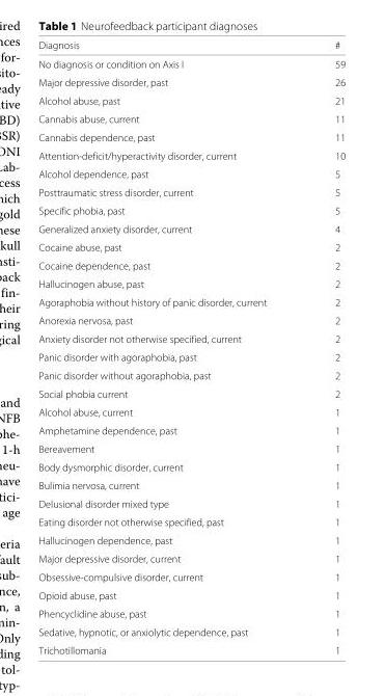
<table><thead><tr><td>Diagnosis</td><td>#</td></tr></thead><tbody><tr><td>No diagnosis or condition on Axis I</td><td>59</td></tr><tr><td>Major depressive disorder, past</td><td>26</td></tr><tr><td>Alcohol abuse, past</td><td>21</td></tr><tr><td>Cannabis abuse, current</td><td>11</td></tr><tr><td>Cannabis dependence, past</td><td>11</td></tr><tr><td>Attention-deficit/hyperactivity disorder, current</td><td>10</td></tr><tr><td>Alcohol dependence, past</td><td>5</td></tr><tr><td>Posttraumatic stress disorder, current</td><td>5</td></tr><tr><td>Specific phobia, past</td><td>5</td></tr><tr><td>Generalized anxiety disorder, current</td><td>4</td></tr><tr><td>Cocaine abuse, past</td><td>2</td></tr><tr><td>Cocaine dependence, past</td><td>2</td></tr><tr><td>Hallucinogen abuse, past</td><td>2</td></tr><tr><td>Agoraphobia without history of panic disorder, current</td><td>2</td></tr><tr><td>Anorexia nervosa, past</td><td>2</td></tr><tr><td>Anxiety disorder not otherwise specified, current</td><td>2</td></tr><tr><td>Panic disorder with agoraphobia, past</td><td>2</td></tr><tr><td>Panic disorder without agoraphobia, past</td><td>2</td></tr><tr><td>Social phobia current</td><td>2</td></tr><tr><td>Alcohol abuse, current</td><td>1</td></tr><tr><td>Amphetamine dependence, past</td><td>1</td></tr><tr><td>Bereavement</td><td>1</td></tr><tr><td>Body dysmorphic disorder, current</td><td>1</td></tr><tr><td>Bulimia nervosa, current</td><td>1</td></tr><tr><td>Delusional disorder mixed type</td><td>1</td></tr><tr><td>Eating disorder not otherwise specified, past</td><td>1</td></tr><tr><td>Hallucinogen dependence, past</td><td>1</td></tr><tr><td>Major depressive disorder, current</td><td>1</td></tr><tr><td>Obsessive-compulsive disorder, current</td><td>1</td></tr><tr><td>Opioid abuse, past</td><td>1</td></tr><tr><td>Phencyclidine abuse, past</td><td>1</td></tr><tr><td>Sedative, hypnotic, or anxiolytic dependence, past</td><td>1</td></tr><tr><td>Trichotillomania</td><td>1</td></tr></tbody></table>